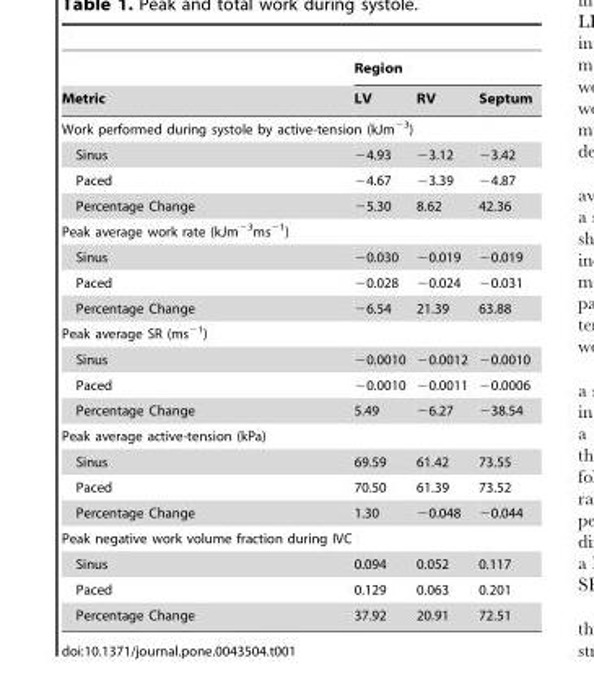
<table><thead><tr><td rowspan="2">Metric</td><td colspan="3">Region</td></tr><tr><td>LV</td><td>RV</td><td>Septum</td></tr></thead><tbody><tr><td colspan="4">Work performed during systole by active-tension (kJm<sup>−3</sup>)</td></tr><tr><td>Sinus</td><td>−4.93</td><td>−3.12</td><td>−3.42</td></tr><tr><td>Paced</td><td>−4.67</td><td>−3.39</td><td>−4.87</td></tr><tr><td>Percentage Change</td><td>−5.30</td><td>8.62</td><td>42.36</td></tr><tr><td colspan="4">Peak average work rate (kJm<sup>−3</sup>ms<sup>−1</sup>)</td></tr><tr><td>Sinus</td><td>−0.030</td><td>−0.019</td><td>−0.019</td></tr><tr><td>Paced</td><td>−0.028</td><td>−0.024</td><td>−0.031</td></tr><tr><td>Percentage Change</td><td>−6.54</td><td>21.39</td><td>63.88</td></tr><tr><td colspan="4">Peak average SR (ms<sup>−1</sup>)</td></tr><tr><td>Sinus</td><td>−0.0010</td><td>−0.0012</td><td>−0.0010</td></tr><tr><td>Paced</td><td>−0.0010</td><td>−0.0011</td><td>−0.0006</td></tr><tr><td>Percentage Change</td><td>5.49</td><td>−6.27</td><td>−38.54</td></tr><tr><td colspan="4">Peak average active-tension (kPa)</td></tr><tr><td>Sinus</td><td>69.59</td><td>61.42</td><td>73.55</td></tr><tr><td>Paced</td><td>70.50</td><td>61.39</td><td>73.52</td></tr><tr><td>Percentage Change</td><td>1.30</td><td>−0.048</td><td>−0.044</td></tr><tr><td colspan="4">Peak negative work volume fraction during IVC</td></tr><tr><td>Sinus</td><td>0.094</td><td>0.052</td><td>0.117</td></tr><tr><td>Paced</td><td>0.129</td><td>0.063</td><td>0.201</td></tr><tr><td>Percentage Change</td><td>37.92</td><td>20.91</td><td>72.51</td></tr></tbody></table>